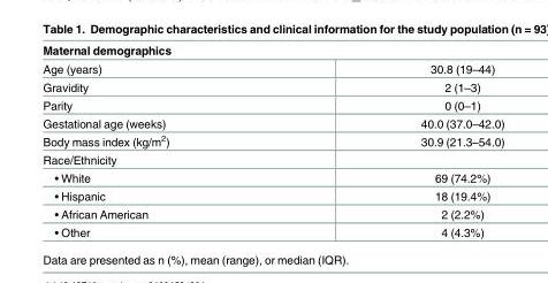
<table><thead><tr><td colspan="2">Maternal demographics</td></tr><tr><td>Age (years)</td><td>30.8 (19–44)</td></tr></thead><tbody><tr><td>Gravidity</td><td>2 (1–3)</td></tr><tr><td>Parity</td><td>0 (0–1)</td></tr><tr><td>Gestational age (weeks)</td><td>40.0 (37.0–42.0)</td></tr><tr><td>Body mass index (kg/m<sup>2</sup>)</td><td>30.9 (21.3–54.0)</td></tr><tr><td colspan="2">Race/Ethnicity</td></tr><tr><td>• White</td><td>69 (74.2%)</td></tr><tr><td>• Hispanic</td><td>18 (19.4%)</td></tr><tr><td>• African American</td><td>2 (2.2%)</td></tr><tr><td>• Other</td><td>4 (4.3%)</td></tr></tbody></table>